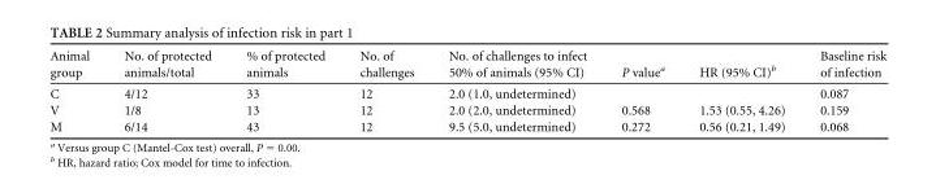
<table><thead><tr><td>Animal group</td><td>No. of protected animals/total</td><td>% of protected animals</td><td>No. of challenges</td><td>No. of challenges to infect 50% of animals (95% CI)</td><td>P value<sup>a</sup></td><td>HR (95% CI)<sup>b</sup></td><td>Baseline risk of infection</td></tr></thead><tbody><tr><td>C</td><td>4/12</td><td>33</td><td>12</td><td>2.0 (1.0, undetermined)</td><td></td><td></td><td>0.087</td></tr><tr><td>V</td><td>1/8</td><td>13</td><td>12</td><td>2.0 (2.0, undetermined)</td><td>0.568</td><td>1.53 (0.55, 4.26)</td><td>0.159</td></tr><tr><td>M</td><td>6/14</td><td>43</td><td>12</td><td>9.5 (5.0, undetermined)</td><td>0.272</td><td>0.56 (0.21, 1.49)</td><td>0.068</td></tr></tbody></table>